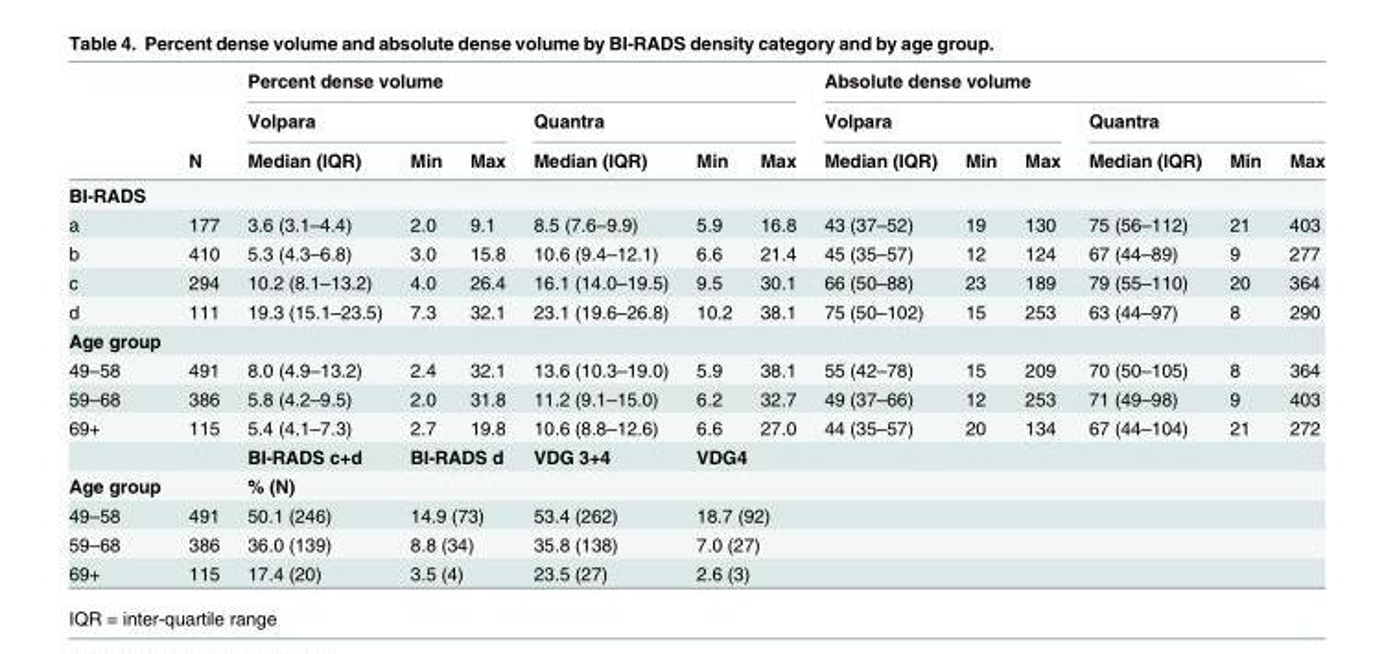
<table><thead><tr><td rowspan="3"></td><td rowspan="3">N</td><td colspan="6">Percent dense volume</td><td colspan="6">Absolute dense volume</td></tr><tr><td colspan="3">Volpara</td><td colspan="3">Quantra</td><td colspan="3">Volpara</td><td colspan="3">Quantra</td></tr><tr><td>Median (IQR)</td><td>Min</td><td>Max</td><td>Median (IQR)</td><td>Min</td><td>Max</td><td>Median (IQR)</td><td>Min</td><td>Max</td><td>Median (IQR)</td><td>Min</td><td>Max</td></tr></thead><tbody><tr><td colspan="14">BI-RADS</td></tr><tr><td>a</td><td>177</td><td>3.6 (3.1–4.4)</td><td>2.0</td><td>9.1</td><td>8.5 (7.6–9.9)</td><td>5.9</td><td>16.8</td><td>43 (37–52)</td><td>19</td><td>130</td><td>75 (56–112)</td><td>21</td><td>403</td></tr><tr><td>b</td><td>410</td><td>5.3 (4.3–6.8)</td><td>3.0</td><td>15.8</td><td>10.6 (9.4–12.1)</td><td>6.6</td><td>21.4</td><td>45 (35–57)</td><td>12</td><td>124</td><td>67 (44–89)</td><td>9</td><td>277</td></tr><tr><td>c</td><td>294</td><td>10.2 (8.1–13.2)</td><td>4.0</td><td>26.4</td><td>16.1 (14.0–19.5)</td><td>9.5</td><td>30.1</td><td>66 (50–88)</td><td>23</td><td>189</td><td>79 (55–110)</td><td>20</td><td>364</td></tr><tr><td>d</td><td>111</td><td>19.3 (15.1–23.5)</td><td>7.3</td><td>32.1</td><td>23.1 (19.6–26.8)</td><td>10.2</td><td>38.1</td><td>75 (50–102)</td><td>15</td><td>253</td><td>63 (44–97)</td><td>8</td><td>290</td></tr><tr><td colspan="14">Age group</td></tr><tr><td>49–58</td><td>491</td><td>8.0 (4.9–13.2)</td><td>2.4</td><td>32.1</td><td>13.6 (10.3–19.0)</td><td>5.9</td><td>38.1</td><td>55 (42–78)</td><td>15</td><td>209</td><td>70 (50–105)</td><td>8</td><td>364</td></tr><tr><td>59–68</td><td>386</td><td>5.8 (4.2–9.5)</td><td>2.0</td><td>31.8</td><td>11.2 (9.1–15.0)</td><td>6.2</td><td>32.7</td><td>49 (37–66)</td><td>12</td><td>253</td><td>71 (49–98)</td><td>9</td><td>403</td></tr><tr><td rowspan="2">69+</td><td>115</td><td>5.4 (4.1–7.3)</td><td>2.7</td><td>19.8</td><td>10.6 (8.8–12.6)</td><td>6.6</td><td>27.0</td><td>44 (35–57)</td><td>20</td><td>134</td><td>67 (44–104)</td><td>21</td><td>272</td></tr><tr><td></td><td>BI-RADS c+d</td><td colspan="2">BI-RADS d</td><td>VDG 3+4</td><td colspan="2">VDG4</td><td></td><td></td><td></td><td></td><td></td><td></td></tr><tr><td>Age group</td><td></td><td>% (N)</td><td colspan="2"></td><td></td><td colspan="2"></td><td></td><td></td><td></td><td></td><td></td><td></td></tr><tr><td>49–58</td><td>491</td><td>50.1 (246)</td><td colspan="2">14.9 (73)</td><td>53.4 (262)</td><td colspan="2">18.7 (92)</td><td></td><td></td><td></td><td></td><td></td><td></td></tr><tr><td>59–68</td><td>386</td><td>36.0 (139)</td><td colspan="2">8.8 (34)</td><td>35.8 (138)</td><td colspan="2">7.0 (27)</td><td></td><td></td><td></td><td></td><td></td><td></td></tr><tr><td>69+</td><td>115</td><td>17.4 (20)</td><td colspan="2">3.5 (4)</td><td>23.5 (27)</td><td colspan="2">2.6 (3)</td><td></td><td></td><td></td><td></td><td></td><td></td></tr></tbody></table>